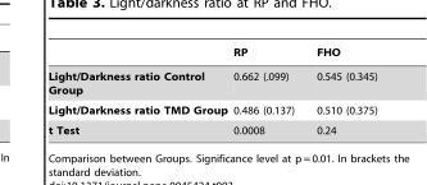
<table><thead><tr><td></td><td>RP</td><td>FHO</td></tr></thead><tbody><tr><td>Light/Darkness ratio Control Group</td><td>0.662 (.099)</td><td>0.545 (0.345)</td></tr><tr><td>Light/Darkness ratio TMD Group</td><td>0.486 (0.137)</td><td>0.510 (0.375)</td></tr><tr><td>t Test</td><td>0.0008</td><td>0.24</td></tr></tbody></table>